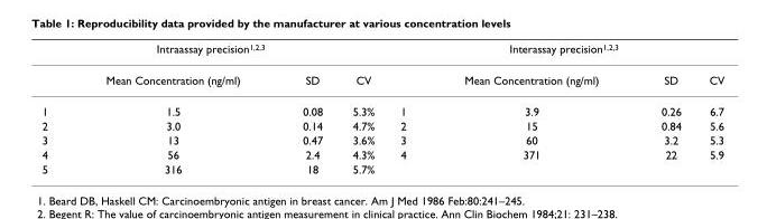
<table><thead><tr><td colspan="4">Intraassay precision<sup>1,2,3</sup></td><td colspan="4">Interassay precision<sup>1,2,3</sup></td></tr><tr><td></td><td>Mean Concentration (ng/ml)</td><td>SD</td><td>CV</td><td></td><td>Mean Concentration (ng/ml)</td><td>SD</td><td>CV</td></tr></thead><tbody><tr><td>1</td><td>1.5</td><td>0.08</td><td>5.3%</td><td>1</td><td>3.9</td><td>0.26</td><td>6.7</td></tr><tr><td>2</td><td>3.0</td><td>0.14</td><td>4.7%</td><td>2</td><td>15</td><td>0.84</td><td>5.6</td></tr><tr><td>3</td><td>13</td><td>0.47</td><td>3.6%</td><td>3</td><td>60</td><td>3.2</td><td>5.3</td></tr><tr><td>4</td><td>56</td><td>2.4</td><td>4.3%</td><td>4</td><td>371</td><td>22</td><td>5.9</td></tr><tr><td>5</td><td>316</td><td>18</td><td>5.7%</td><td></td><td></td><td></td><td></td></tr></tbody></table>